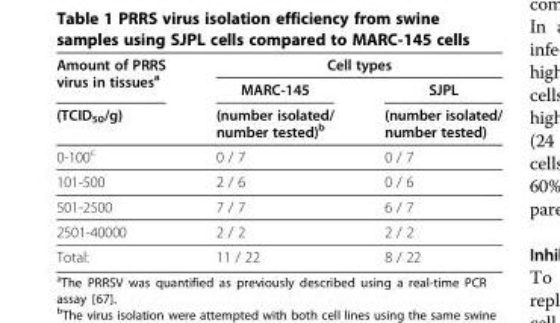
<table><thead><tr><td rowspan="3">Amount of PRRS virus in tissues<sup>a</sup> (TCID<sub>50</sub>/g)</td><td colspan="2">Cell types</td></tr><tr><td rowspan="2">MARC-145 (number isolated/ number tested)<sup>b</sup></td><td rowspan="2">SJPL (number isolated/ number tested)</td></tr><tr></tr></thead><tbody><tr><td>0-100<sup>c</sup></td><td>0 / 7</td><td>0 / 7</td></tr><tr><td>101-500</td><td>2 / 6</td><td>0 / 6</td></tr><tr><td>501-2500</td><td>7 / 7</td><td>6 / 7</td></tr><tr><td>2501-40000</td><td>2 / 2</td><td>2 / 2</td></tr><tr><td>Total:</td><td>11 / 22</td><td>8 / 22</td></tr></tbody></table>